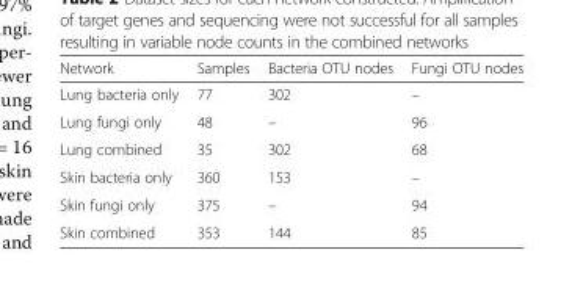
<table><thead><tr><td>Network</td><td>Samples</td><td>Bacteria OTU nodes</td><td>Fungi OTU nodes</td></tr></thead><tbody><tr><td>Lung bacteria only</td><td>77</td><td>302</td><td>–</td></tr><tr><td>Lung fungi only</td><td>48</td><td>–</td><td>96</td></tr><tr><td>Lung combined</td><td>35</td><td>302</td><td>68</td></tr><tr><td>Skin bacteria only</td><td>360</td><td>153</td><td>–</td></tr><tr><td>Skin fungi only</td><td>375</td><td>–</td><td>94</td></tr><tr><td>Skin combined</td><td>353</td><td>144</td><td>85</td></tr></tbody></table>